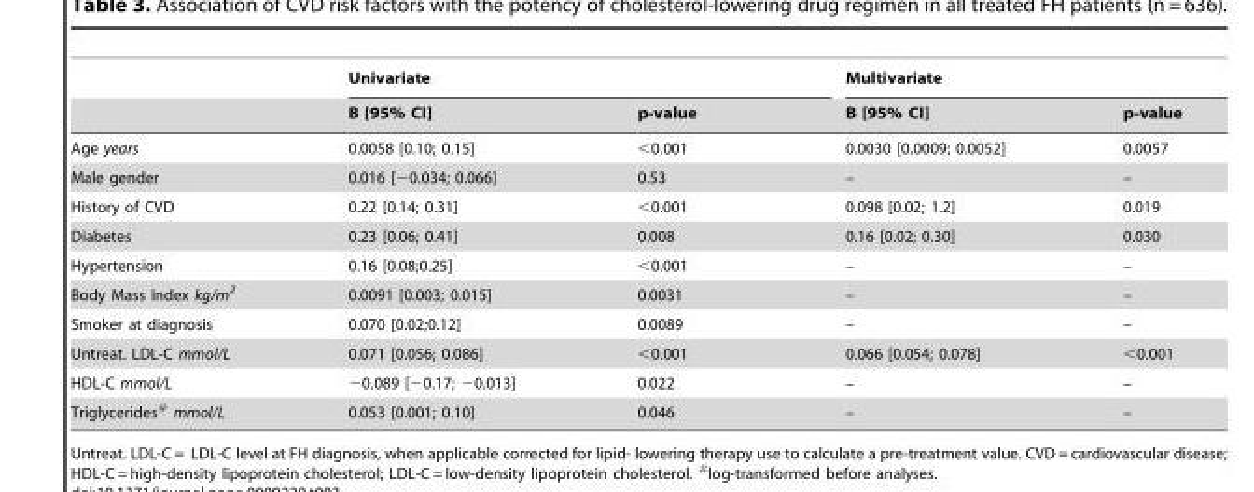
<table><thead><tr><td rowspan="2"></td><td colspan="2">Univariate</td><td colspan="2">Multivariate</td></tr><tr><td>B [95% CI]</td><td>p-value</td><td>B [95% CI]</td><td>p-value</td></tr></thead><tbody><tr><td>Age years</td><td>0.0058 [0.10; 0.15]</td><td>&lt;0.001</td><td>0.0030 [0.0009; 0.0052]</td><td>0.0057</td></tr><tr><td>Male gender</td><td>0.016 [−0.034; 0.066]</td><td>0.53</td><td>–</td><td>–</td></tr><tr><td>History of CVD</td><td>0.22 [0.14; 0.31]</td><td>&lt;0.001</td><td>0.098 [0.02; 1.2]</td><td>0.019</td></tr><tr><td>Diabetes</td><td>0.23 [0.06; 0.41]</td><td>0.008</td><td>0.16 [0.02; 0.30]</td><td>0.030</td></tr><tr><td>Hypertension</td><td>0.16 [0.08;0.25]</td><td>&lt;0.001</td><td>–</td><td>–</td></tr><tr><td>Body Mass Index kg/m<sup>2</sup></td><td>0.0091 [0.003; 0.015]</td><td>0.0031</td><td>–</td><td>–</td></tr><tr><td>Smoker at diagnosis</td><td>0.070 [0.02;0.12]</td><td>0.0089</td><td>–</td><td>–</td></tr><tr><td>Untreat. LDL-C mmol/L</td><td>0.071 [0.056; 0.086]</td><td>&lt;0.001</td><td>0.066 [0.054; 0.078]</td><td>&lt;0.001</td></tr><tr><td>HDL-C mmol/L</td><td>−0.089 [−0.17; −0.013]</td><td>0.022</td><td>–</td><td>–</td></tr><tr><td>Triglycerides<sup>#</sup> mmol/L</td><td>0.053 [0.001; 0.10]</td><td>0.046</td><td>–</td><td>–</td></tr></tbody></table>